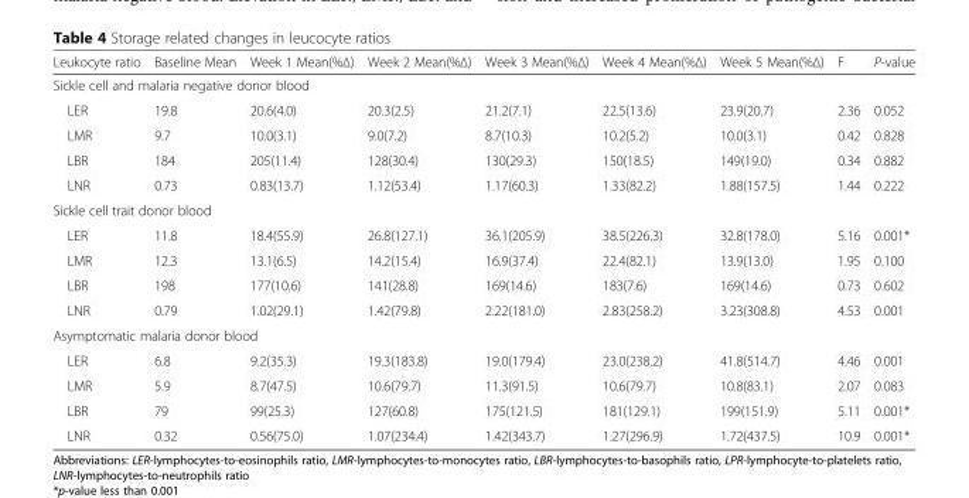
<table><thead><tr><td>Leukocyte ratio</td><td>Baseline Mean</td><td>Week 1 Mean(%Δ)</td><td>Week 2 Mean(%Δ)</td><td>Week 3 Mean(%Δ)</td><td>Week 4 Mean(%Δ)</td><td>Week 5 Mean(%Δ)</td><td>F</td><td>P-value</td></tr></thead><tbody><tr><td colspan="9">Sickle cell and malaria negative donor blood</td></tr><tr><td>LER</td><td>19.8</td><td>20.6(4.0)</td><td>20.3(2.5)</td><td>21.2(7.1)</td><td>22.5(13.6)</td><td>23.9(20.7)</td><td>2.36</td><td>0.052</td></tr><tr><td>LMR</td><td>9.7</td><td>10.0(3.1)</td><td>9.0(7.2)</td><td>8.7(10.3)</td><td>10.2(5.2)</td><td>10.0(3.1)</td><td>0.42</td><td>0.828</td></tr><tr><td>LBR</td><td>184</td><td>205(11.4)</td><td>128(30.4)</td><td>130(29.3)</td><td>150(18.5)</td><td>149(19.0)</td><td>0.34</td><td>0.882</td></tr><tr><td>LNR</td><td>0.73</td><td>0.83(13.7)</td><td>1.12(53.4)</td><td>1.17(60.3)</td><td>1.33(82.2)</td><td>1.88(157.5)</td><td>1.44</td><td>0.222</td></tr><tr><td colspan="9">Sickle cell trait donor blood</td></tr><tr><td>LER</td><td>11.8</td><td>18.4(55.9)</td><td>26.8(127.1)</td><td>36.1(205.9)</td><td>38.5(226.3)</td><td>32.8(178.0)</td><td>5.16</td><td>0.001*</td></tr><tr><td>LMR</td><td>12.3</td><td>13.1(6.5)</td><td>14.2(15.4)</td><td>16.9(37.4)</td><td>22.4(82.1)</td><td>13.9(13.0)</td><td>1.95</td><td>0.100</td></tr><tr><td>LBR</td><td>198</td><td>177(10.6)</td><td>141(28.8)</td><td>169(14.6)</td><td>183(7.6)</td><td>169(14.6)</td><td>0.73</td><td>0.602</td></tr><tr><td>LNR</td><td>0.79</td><td>1.02(29.1)</td><td>1.42(79.8)</td><td>2.22(181.0)</td><td>2.83(258.2)</td><td>3.23(308.8)</td><td>4.53</td><td>0.001</td></tr><tr><td colspan="9">Asymptomatic malaria donor blood</td></tr><tr><td>LER</td><td>6.8</td><td>9.2(35.3)</td><td>19.3(183.8)</td><td>19.0(179.4)</td><td>23.0(238.2)</td><td>41.8(514.7)</td><td>4.46</td><td>0.001</td></tr><tr><td>LMR</td><td>5.9</td><td>8.7(47.5)</td><td>10.6(79.7)</td><td>11.3(91.5)</td><td>10.6(79.7)</td><td>10.8(83.1)</td><td>2.07</td><td>0.083</td></tr><tr><td>LBR</td><td>79</td><td>99(25.3)</td><td>127(60.8)</td><td>175(121.5)</td><td>181(129.1)</td><td>199(151.9)</td><td>5.11</td><td>0.001*</td></tr><tr><td>LNR</td><td>0.32</td><td>0.56(75.0)</td><td>1.07(234.4)</td><td>1.42(343.7)</td><td>1.27(296.9)</td><td>1.72(437.5)</td><td>10.9</td><td>0.001*</td></tr></tbody></table>